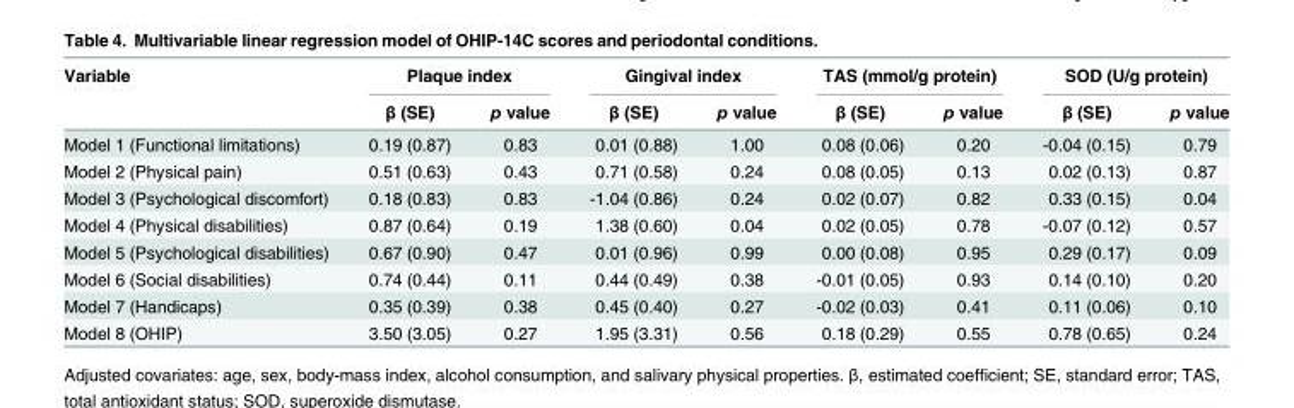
<table><thead><tr><td rowspan="2">Variable</td><td colspan="2">Plaque index</td><td colspan="2">Gingival index</td><td colspan="2">TAS (mmol/g protein)</td><td colspan="2">SOD (U/g protein)</td></tr><tr><td>β (SE)</td><td>p value</td><td>β (SE)</td><td>p value</td><td>β (SE)</td><td>p value</td><td>β (SE)</td><td>p value</td></tr></thead><tbody><tr><td>Model 1 (Functional limitations)</td><td>0.19 (0.87)</td><td>0.83</td><td>0.01 (0.88)</td><td>1.00</td><td>0.08 (0.06)</td><td>0.20</td><td>-0.04 (0.15)</td><td>0.79</td></tr><tr><td>Model 2 (Physical pain)</td><td>0.51 (0.63)</td><td>0.43</td><td>0.71 (0.58)</td><td>0.24</td><td>0.08 (0.05)</td><td>0.13</td><td>0.02 (0.13)</td><td>0.87</td></tr><tr><td>Model 3 (Psychological discomfort)</td><td>0.18 (0.83)</td><td>0.83</td><td>-1.04 (0.86)</td><td>0.24</td><td>0.02 (0.07)</td><td>0.82</td><td>0.33 (0.15)</td><td>0.04</td></tr><tr><td>Model 4 (Physical disabilities)</td><td>0.87 (0.64)</td><td>0.19</td><td>1.38 (0.60)</td><td>0.04</td><td>0.02 (0.05)</td><td>0.78</td><td>-0.07 (0.12)</td><td>0.57</td></tr><tr><td>Model 5 (Psychological disabilities)</td><td>0.67 (0.90)</td><td>0.47</td><td>0.01 (0.96)</td><td>0.99</td><td>0.00 (0.08)</td><td>0.95</td><td>0.29 (0.17)</td><td>0.09</td></tr><tr><td>Model 6 (Social disabilities)</td><td>0.74 (0.44)</td><td>0.11</td><td>0.44 (0.49)</td><td>0.38</td><td>-0.01 (0.05)</td><td>0.93</td><td>0.14 (0.10)</td><td>0.20</td></tr><tr><td>Model 7 (Handicaps)</td><td>0.35 (0.39)</td><td>0.38</td><td>0.45 (0.40)</td><td>0.27</td><td>-0.02 (0.03)</td><td>0.41</td><td>0.11 (0.06)</td><td>0.10</td></tr><tr><td>Model 8 (OHIP)</td><td>3.50 (3.05)</td><td>0.27</td><td>1.95 (3.31)</td><td>0.56</td><td>0.18 (0.29)</td><td>0.55</td><td>0.78 (0.65)</td><td>0.24</td></tr></tbody></table>